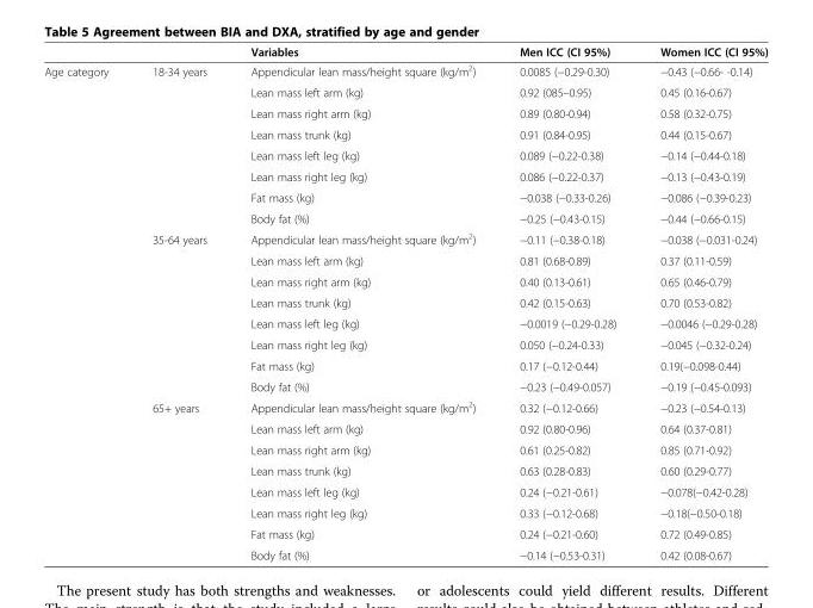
<table><thead><tr><td></td><td></td><td>Variables</td><td>Men ICC (CI 95%)</td><td>Women ICC (CI 95%)</td></tr></thead><tbody><tr><td rowspan="24">Age category</td><td>18-34 years</td><td>Appendicular lean mass/height square (kg/m<sup>2</sup>)</td><td>0.0085 (−0.29-0.30)</td><td>−0.43 (−0.66- -0.14)</td></tr><tr><td></td><td>Lean mass left arm (kg)</td><td>0.92 (085–0.95)</td><td>0.45 (0.16-0.67)</td></tr><tr><td></td><td>Lean mass right arm (kg)</td><td>0.89 (0.80-0.94)</td><td>0.58 (0.32-0.75)</td></tr><tr><td></td><td>Lean mass trunk (kg)</td><td>0.91 (0.84-0.95)</td><td>0.44 (0.15-0.67)</td></tr><tr><td></td><td>Lean mass left leg (kg)</td><td>0.089 (−0.22-0.38)</td><td>−0.14 (−0.44-0.18)</td></tr><tr><td></td><td>Lean mass right leg (kg)</td><td>0.086 (−0.22-0.37)</td><td>−0.13 (−0.43-0.19)</td></tr><tr><td></td><td>Fat mass (kg)</td><td>−0.038 (−0.33-0.26)</td><td>−0.086 (−0.39-0.23)</td></tr><tr><td></td><td>Body fat (%)</td><td>−0.25 (−0.43-0.15)</td><td>−0.44 (−0.66-0.15)</td></tr><tr><td>35-64 years</td><td>Appendicular lean mass/height square (kg/m<sup>2</sup>)</td><td>−0.11 (−0.38-0.18)</td><td>−0.038 (−0.031-0.24)</td></tr><tr><td></td><td>Lean mass left arm (kg)</td><td>0.81 (0.68-0.89)</td><td>0.37 (0.11-0.59)</td></tr><tr><td></td><td>Lean mass right arm (kg)</td><td>0.40 (0.13-0.61)</td><td>0.65 (0.46-0.79)</td></tr><tr><td></td><td>Lean mass trunk (kg)</td><td>0.42 (0.15-0.63)</td><td>0.70 (0.53-0.82)</td></tr><tr><td></td><td>Lean mass left leg (kg)</td><td>−0.0019 (−0.29-0.28)</td><td>−0.0046 (−0.29-0.28)</td></tr><tr><td></td><td>Lean mass right leg (kg)</td><td>0.050 (−0.24-0.33)</td><td>−0.045 (−0.32-0.24)</td></tr><tr><td></td><td>Fat mass (kg)</td><td>0.17 (−0.12-0.44)</td><td>0.19(−0.098-0.44)</td></tr><tr><td></td><td>Body fat (%)</td><td>−0.23 (−0.49-0.057)</td><td>−0.19 (−0.45-0.093)</td></tr><tr><td>65+ years</td><td>Appendicular lean mass/height square (kg/m<sup>2</sup>)</td><td>0.32 (−0.12-0.66)</td><td>−0.23 (−0.54-0.13)</td></tr><tr><td></td><td>Lean mass left arm (kg)</td><td>0.92 (0.80-0.96)</td><td>0.64 (0.37-0.81)</td></tr><tr><td></td><td>Lean mass right arm (kg)</td><td>0.61 (0.25-0.82)</td><td>0.85 (0.71-0.92)</td></tr><tr><td></td><td>Lean mass trunk (kg)</td><td>0.63 (0.28-0.83)</td><td>0.60 (0.29-0.77)</td></tr><tr><td></td><td>Lean mass left leg (kg)</td><td>0.24 (−0.21-0.61)</td><td>−0.078(−0.42-0.28)</td></tr><tr><td></td><td>Lean mass right leg (kg)</td><td>0.33 (−0.12-0.68)</td><td>−0.18(−0.50-0.18)</td></tr><tr><td></td><td>Fat mass (kg)</td><td>0.24 (−0.21-0.60)</td><td>0.72 (0.49-0.85)</td></tr><tr><td></td><td>Body fat (%)</td><td>−0.14 (−0.53-0.31)</td><td>0.42 (0.08-0.67)</td></tr></tbody></table>